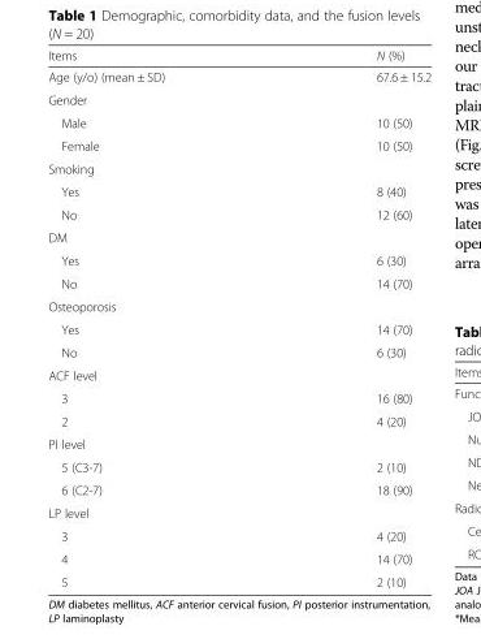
<table><thead><tr><td>Items</td><td>N (%)</td></tr></thead><tbody><tr><td>Age (y/o) (mean ± SD)</td><td>67.6 ± 15.2</td></tr><tr><td colspan="2">Gender</td></tr><tr><td>Male</td><td>10 (50)</td></tr><tr><td>Female</td><td>10 (50)</td></tr><tr><td colspan="2">Smoking</td></tr><tr><td>Yes</td><td>8 (40)</td></tr><tr><td>No</td><td>12 (60)</td></tr><tr><td colspan="2">DM</td></tr><tr><td>Yes</td><td>6 (30)</td></tr><tr><td>No</td><td>14 (70)</td></tr><tr><td colspan="2">Osteoporosis</td></tr><tr><td>Yes</td><td>14 (70)</td></tr><tr><td>No</td><td>6 (30)</td></tr><tr><td colspan="2">ACF level</td></tr><tr><td>3</td><td>16 (80)</td></tr><tr><td>2</td><td>4 (20)</td></tr><tr><td colspan="2">PI level</td></tr><tr><td>5 (C3-7)</td><td>2 (10)</td></tr><tr><td>6 (C2-7)</td><td>18 (90)</td></tr><tr><td colspan="2">LP level</td></tr><tr><td>3</td><td>4 (20)</td></tr><tr><td>4</td><td>14 (70)</td></tr><tr><td>5</td><td>2 (10)</td></tr></tbody></table>